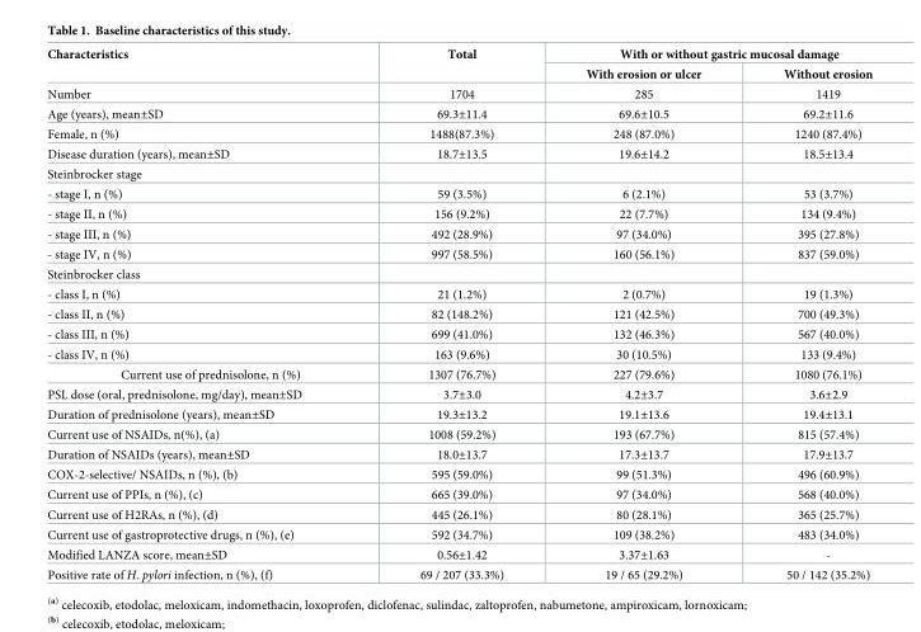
<table><thead><tr><td rowspan="2">Characteristics</td><td rowspan="2">Total</td><td colspan="2">With or without gastric mucosal damage</td></tr><tr><td>With erosion or ulcer</td><td>Without erosion</td></tr></thead><tbody><tr><td>Number</td><td>1704</td><td>285</td><td>1419</td></tr><tr><td>Age (years), mean±SD</td><td>69.3±11.4</td><td>69.6±10.5</td><td>69.2±11.6</td></tr><tr><td>Female, n (%)</td><td>1488(87.3%)</td><td>248 (87.0%)</td><td>1240 (87.4%)</td></tr><tr><td>Disease duration (years), mean±SD</td><td>18.7±13.5</td><td>19.6±14.2</td><td>18.5±13.4</td></tr><tr><td colspan="4">Steinbrocker stage</td></tr><tr><td>- stage I, n (%)</td><td>59 (3.5%)</td><td>6 (2.1%)</td><td>53 (3.7%)</td></tr><tr><td>- stage II, n (%)</td><td>156 (9.2%)</td><td>22 (7.7%)</td><td>134 (9.4%)</td></tr><tr><td>- stage III, n (%)</td><td>492 (28.9%)</td><td>97 (34.0%)</td><td>395 (27.8%)</td></tr><tr><td>- stage IV, n (%)</td><td>997 (58.5%)</td><td>160 (56.1%)</td><td>837 (59.0%)</td></tr><tr><td colspan="4">Steinbrocker class</td></tr><tr><td>- class I, n (%)</td><td>21 (1.2%)</td><td>2 (0.7%)</td><td>19 (1.3%)</td></tr><tr><td>- class II, n (%)</td><td>82 (148.2%)</td><td>121 (42.5%)</td><td>700 (49.3%)</td></tr><tr><td>- class III, n (%)</td><td>699 (41.0%)</td><td>132 (46.3%)</td><td>567 (40.0%)</td></tr><tr><td>- class IV, n (%)</td><td>163 (9.6%)</td><td>30 (10.5%)</td><td>133 (9.4%)</td></tr><tr><td>Current use of prednisolone, n (%)</td><td>1307 (76.7%)</td><td>227 (79.6%)</td><td>1080 (76.1%)</td></tr><tr><td>PSL dose (oral, prednisolone, mg/day), mean±SD</td><td>3.7±3.0</td><td>4.2±3.7</td><td>3.6±2.9</td></tr><tr><td>Duration of prednisolone (years), mean±SD</td><td>19.3±13.2</td><td>19.1±13.6</td><td>19.4±13.1</td></tr><tr><td>Current use of NSAIDs, n(%), (a)</td><td>1008 (59.2%)</td><td>193 (67.7%)</td><td>815 (57.4%)</td></tr><tr><td>Duration of NSAIDs (years), mean±SD</td><td>18.0±13.7</td><td>17.3±13.7</td><td>17.9±13.7</td></tr><tr><td>COX-2-selective/ NSAIDs, n (%), (b)</td><td>595 (59.0%)</td><td>99 (51.3%)</td><td>496 (60.9%)</td></tr><tr><td>Current use of PPIs, n (%), (c)</td><td>665 (39.0%)</td><td>97 (34.0%)</td><td>568 (40.0%)</td></tr><tr><td>Current use of H2RAs, n (%), (d)</td><td>445 (26.1%)</td><td>80 (28.1%)</td><td>365 (25.7%)</td></tr><tr><td>Current use of gastroprotective drugs, n (%), (e)</td><td>592 (34.7%)</td><td>109 (38.2%)</td><td>483 (34.0%)</td></tr><tr><td>Modified LANZA score, mean±SD</td><td>0.56±1.42</td><td>3.37±1.63</td><td>-</td></tr><tr><td>Positive rate of H. pylori infection, n (%), (f)</td><td>69 / 207 (33.3%)</td><td>19 / 65 (29.2%)</td><td>50 / 142 (35.2%)</td></tr></tbody></table>